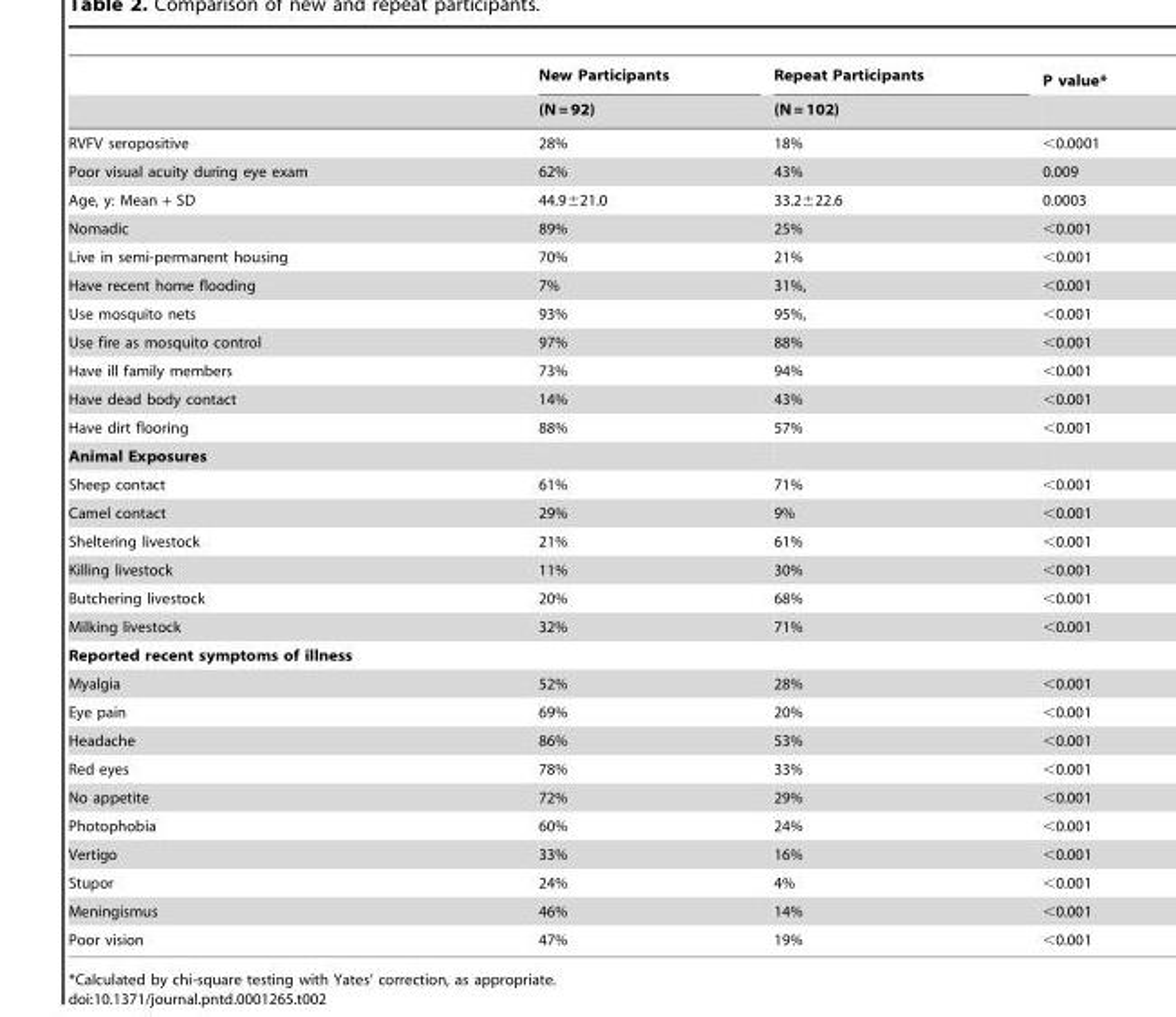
<table><thead><tr><td rowspan="2"></td><td rowspan="2">New Participants (N = 92)</td><td rowspan="2">Repeat Participants (N = 102)</td><td rowspan="2">P value*</td></tr><tr></tr></thead><tbody><tr><td>RVFV seropositive</td><td>28%</td><td>18%</td><td>&lt;0.0001</td></tr><tr><td>Poor visual acuity during eye exam</td><td>62%</td><td>43%</td><td>0.009</td></tr><tr><td>Age, y: Mean + SD</td><td>44.9±21.0</td><td>33.2±22.6</td><td>0.0003</td></tr><tr><td>Nomadic</td><td>89%</td><td>25%</td><td>&lt;0.001</td></tr><tr><td>Live in semi-permanent housing</td><td>70%</td><td>21%</td><td>&lt;0.001</td></tr><tr><td>Have recent home flooding</td><td>7%</td><td>31%,</td><td>&lt;0.001</td></tr><tr><td>Use mosquito nets</td><td>93%</td><td>95%,</td><td>&lt;0.001</td></tr><tr><td>Use fire as mosquito control</td><td>97%</td><td>88%</td><td>&lt;0.001</td></tr><tr><td>Have ill family members</td><td>73%</td><td>94%</td><td>&lt;0.001</td></tr><tr><td>Have dead body contact</td><td>14%</td><td>43%</td><td>&lt;0.001</td></tr><tr><td>Have dirt flooring</td><td>88%</td><td>57%</td><td>&lt;0.001</td></tr><tr><td colspan="4">Animal Exposures</td></tr><tr><td>Sheep contact</td><td>61%</td><td>71%</td><td>&lt;0.001</td></tr><tr><td>Camel contact</td><td>29%</td><td>9%</td><td>&lt;0.001</td></tr><tr><td>Sheltering livestock</td><td>21%</td><td>61%</td><td>&lt;0.001</td></tr><tr><td>Killing livestock</td><td>11%</td><td>30%</td><td>&lt;0.001</td></tr><tr><td>Butchering livestock</td><td>20%</td><td>68%</td><td>&lt;0.001</td></tr><tr><td>Milking livestock</td><td>32%</td><td>71%</td><td>&lt;0.001</td></tr><tr><td colspan="4">Reported recent symptoms of illness</td></tr><tr><td>Myalgia</td><td>52%</td><td>28%</td><td>&lt;0.001</td></tr><tr><td>Eye pain</td><td>69%</td><td>20%</td><td>&lt;0.001</td></tr><tr><td>Headache</td><td>86%</td><td>53%</td><td>&lt;0.001</td></tr><tr><td>Red eyes</td><td>78%</td><td>33%</td><td>&lt;0.001</td></tr><tr><td>No appetite</td><td>72%</td><td>29%</td><td>&lt;0.001</td></tr><tr><td>Photophobia</td><td>60%</td><td>24%</td><td>&lt;0.001</td></tr><tr><td>Vertigo</td><td>33%</td><td>16%</td><td>&lt;0.001</td></tr><tr><td>Stupor</td><td>24%</td><td>4%</td><td>&lt;0.001</td></tr><tr><td>Meningismus</td><td>46%</td><td>14%</td><td>&lt;0.001</td></tr><tr><td>Poor vision</td><td>47%</td><td>19%</td><td>&lt;0.001</td></tr></tbody></table>